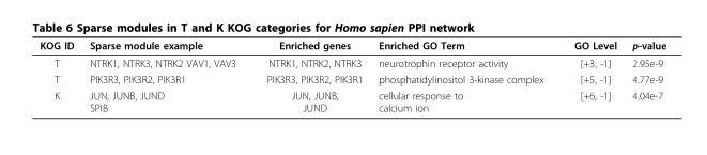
<table><thead><tr><td>KOG ID</td><td>Sparse module example</td><td>Enriched genes</td><td>Enriched GO Term</td><td>GO Level</td><td>p-value</td></tr></thead><tbody><tr><td>T</td><td>NTRK1, NTRK3, NTRK2 VAV1, VAV3</td><td>NTRK1, NTRK2, NTRK3</td><td>neurotrophin receptor activity</td><td>[+3, -1]</td><td>2.95e-9</td></tr><tr><td>T</td><td>PIK3R3, PIK3R2, PIK3R1</td><td>PIK3R3, PIK3R2, PIK3R1</td><td>phosphatidylinositol 3-kinase complex</td><td>[+5, -1]</td><td>4.77e-9</td></tr><tr><td>K</td><td>JUN, JUNB, JUND SPIB</td><td>JUN, JUNB, JUND</td><td>cellular response to calcium ion</td><td>[+6, -1]</td><td>4.04e-7</td></tr></tbody></table>